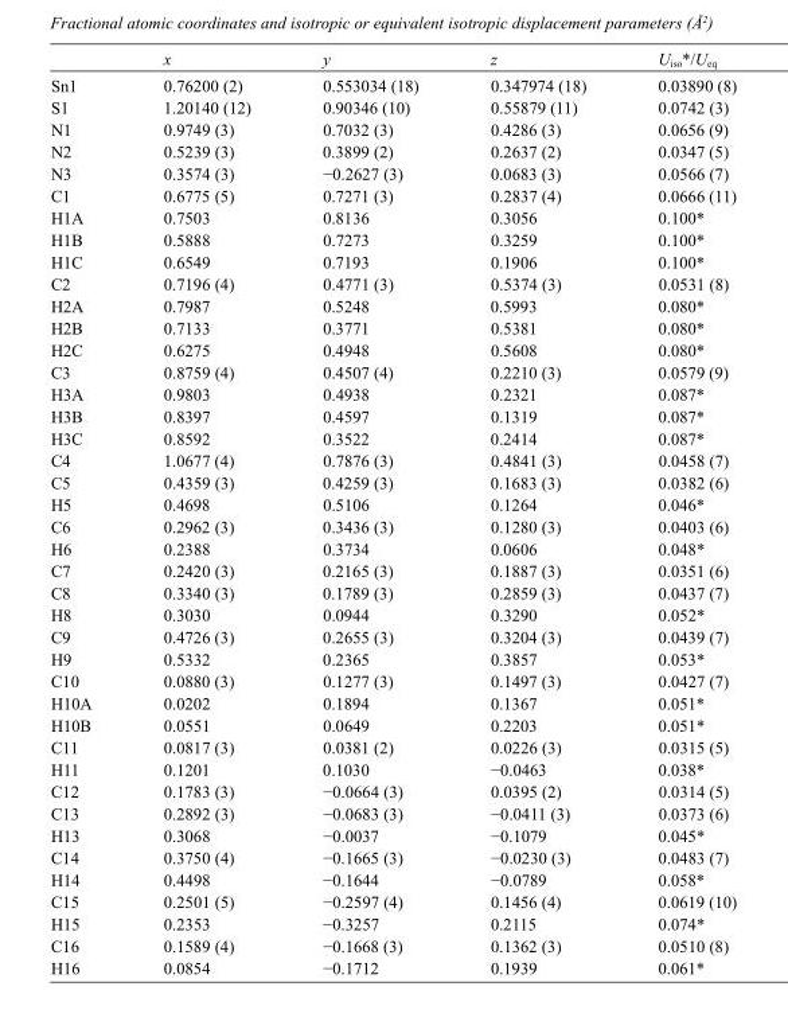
<table><thead><tr><td></td><td>x</td><td>y</td><td>z</td><td>U<sub>iso</sub>*/U<sub>eq</sub></td></tr></thead><tbody><tr><td>Sn1</td><td>0.76200 (2)</td><td>0.553034 (18)</td><td>0.347974 (18)</td><td>0.03890 (8)</td></tr><tr><td>S1</td><td>1.20140 (12)</td><td>0.90346 (10)</td><td>0.55879 (11)</td><td>0.0742 (3)</td></tr><tr><td>N1</td><td>0.9749 (3)</td><td>0.7032 (3)</td><td>0.4286 (3)</td><td>0.0656 (9)</td></tr><tr><td>N2</td><td>0.5239 (3)</td><td>0.3899 (2)</td><td>0.2637 (2)</td><td>0.0347 (5)</td></tr><tr><td>N3</td><td>0.3574 (3)</td><td>−0.2627 (3)</td><td>0.0683 (3)</td><td>0.0566 (7)</td></tr><tr><td>C1</td><td>0.6775 (5)</td><td>0.7271 (3)</td><td>0.2837 (4)</td><td>0.0666 (11)</td></tr><tr><td>H1A</td><td>0.7503</td><td>0.8136</td><td>0.3056</td><td>0.100*</td></tr><tr><td>H1B</td><td>0.5888</td><td>0.7273</td><td>0.3259</td><td>0.100*</td></tr><tr><td>H1C</td><td>0.6549</td><td>0.7193</td><td>0.1906</td><td>0.100*</td></tr><tr><td>C2</td><td>0.7196 (4)</td><td>0.4771 (3)</td><td>0.5374 (3)</td><td>0.0531 (8)</td></tr><tr><td>H2A</td><td>0.7987</td><td>0.5248</td><td>0.5993</td><td>0.080*</td></tr><tr><td>H2B</td><td>0.7133</td><td>0.3771</td><td>0.5381</td><td>0.080*</td></tr><tr><td>H2C</td><td>0.6275</td><td>0.4948</td><td>0.5608</td><td>0.080*</td></tr><tr><td>C3</td><td>0.8759 (4)</td><td>0.4507 (4)</td><td>0.2210 (3)</td><td>0.0579 (9)</td></tr><tr><td>H3A</td><td>0.9803</td><td>0.4938</td><td>0.2321</td><td>0.087*</td></tr><tr><td>H3B</td><td>0.8397</td><td>0.4597</td><td>0.1319</td><td>0.087*</td></tr><tr><td>H3C</td><td>0.8592</td><td>0.3522</td><td>0.2414</td><td>0.087*</td></tr><tr><td>C4</td><td>1.0677 (4)</td><td>0.7876 (3)</td><td>0.4841 (3)</td><td>0.0458 (7)</td></tr><tr><td>C5</td><td>0.4359 (3)</td><td>0.4259 (3)</td><td>0.1683 (3)</td><td>0.0382 (6)</td></tr><tr><td>H5</td><td>0.4698</td><td>0.5106</td><td>0.1264</td><td>0.046*</td></tr><tr><td>C6</td><td>0.2962 (3)</td><td>0.3436 (3)</td><td>0.1280 (3)</td><td>0.0403 (6)</td></tr><tr><td>H6</td><td>0.2388</td><td>0.3734</td><td>0.0606</td><td>0.048*</td></tr><tr><td>C7</td><td>0.2420 (3)</td><td>0.2165 (3)</td><td>0.1887 (3)</td><td>0.0351 (6)</td></tr><tr><td>C8</td><td>0.3340 (3)</td><td>0.1789 (3)</td><td>0.2859 (3)</td><td>0.0437 (7)</td></tr><tr><td>H8</td><td>0.3030</td><td>0.0944</td><td>0.3290</td><td>0.052*</td></tr><tr><td>C9</td><td>0.4726 (3)</td><td>0.2655 (3)</td><td>0.3204 (3)</td><td>0.0439 (7)</td></tr><tr><td>H9</td><td>0.5332</td><td>0.2365</td><td>0.3857</td><td>0.053*</td></tr><tr><td>C10</td><td>0.0880 (3)</td><td>0.1277 (3)</td><td>0.1497 (3)</td><td>0.0427 (7)</td></tr><tr><td>H10A</td><td>0.0202</td><td>0.1894</td><td>0.1367</td><td>0.051*</td></tr><tr><td>H10B</td><td>0.0551</td><td>0.0649</td><td>0.2203</td><td>0.051*</td></tr><tr><td>C11</td><td>0.0817 (3)</td><td>0.0381 (2)</td><td>0.0226 (3)</td><td>0.0315 (5)</td></tr><tr><td>H11</td><td>0.1201</td><td>0.1030</td><td>−0.0463</td><td>0.038*</td></tr><tr><td>C12</td><td>0.1783 (3)</td><td>−0.0664 (3)</td><td>0.0395 (2)</td><td>0.0314 (5)</td></tr><tr><td>C13</td><td>0.2892 (3)</td><td>−0.0683 (3)</td><td>−0.0411 (3)</td><td>0.0373 (6)</td></tr><tr><td>H13</td><td>0.3068</td><td>−0.0037</td><td>−0.1079</td><td>0.045*</td></tr><tr><td>C14</td><td>0.3750 (4)</td><td>−0.1665 (3)</td><td>−0.0230 (3)</td><td>0.0483 (7)</td></tr><tr><td>H14</td><td>0.4498</td><td>−0.1644</td><td>−0.0789</td><td>0.058*</td></tr><tr><td>C15</td><td>0.2501 (5)</td><td>−0.2597 (4)</td><td>0.1456 (4)</td><td>0.0619 (10)</td></tr><tr><td>H15</td><td>0.2353</td><td>−0.3257</td><td>0.2115</td><td>0.074*</td></tr><tr><td>C16</td><td>0.1589 (4)</td><td>−0.1668 (3)</td><td>0.1362 (3)</td><td>0.0510 (8)</td></tr><tr><td>H16</td><td>0.0854</td><td>−0.1712</td><td>0.1939</td><td>0.061*</td></tr></tbody></table>